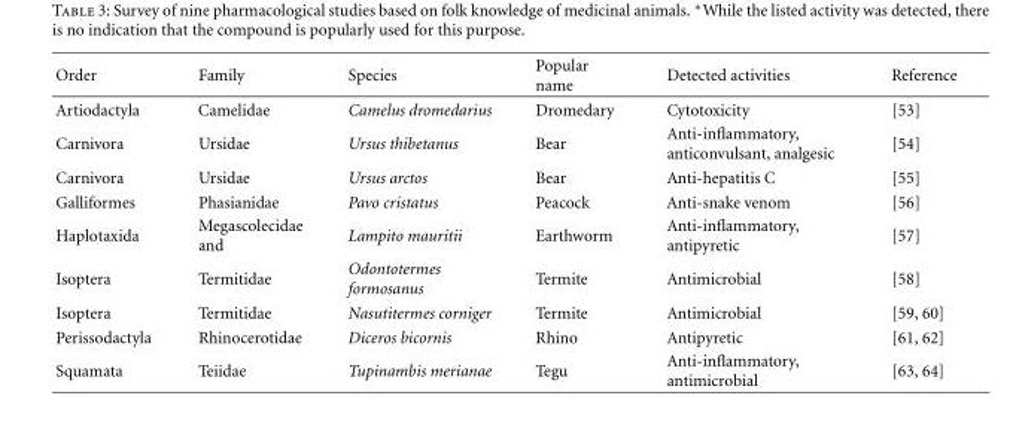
<table><thead><tr><td>Order</td><td>Family</td><td>Species</td><td>Popular name</td><td>Detected activities</td><td>Reference</td></tr></thead><tbody><tr><td>Artiodactyla</td><td>Camelidae</td><td>Camelus dromedarius</td><td>Dromedary</td><td>Cytotoxicity</td><td>[53]</td></tr><tr><td>Carnivora</td><td>Ursidae</td><td>Ursus thibetanus</td><td>Bear</td><td>Anti-inflammatory, anticonvulsant, analgesic</td><td>[54]</td></tr><tr><td>Carnivora</td><td>Ursidae</td><td>Ursus arctos</td><td>Bear</td><td>Anti-hepatitis C</td><td>[55]</td></tr><tr><td>Galliformes</td><td>Phasianidae</td><td>Pavo cristatus</td><td>Peacock</td><td>Anti-snake venom</td><td>[56]</td></tr><tr><td>Haplotaxida</td><td>Megascolecidae and</td><td>Lampito mauritii</td><td>Earthworm</td><td>Anti-inflammatory, antipyretic</td><td>[57]</td></tr><tr><td>Isoptera</td><td>Termitidae</td><td>Odontotermes formosanus</td><td>Termite</td><td>Antimicrobial</td><td>[58]</td></tr><tr><td>Isoptera</td><td>Termitidae</td><td>Nasutitermes corniger</td><td>Termite</td><td>Antimicrobial</td><td>[59, 60]</td></tr><tr><td>Perissodactyla</td><td>Rhinocerotidae</td><td>Diceros bicornis</td><td>Rhino</td><td>Antipyretic</td><td>[61, 62]</td></tr><tr><td>Squamata</td><td>Teiidae</td><td>Tupinambis merianae</td><td>Tegu</td><td>Anti-inflammatory, antimicrobial</td><td>[63, 64]</td></tr></tbody></table>